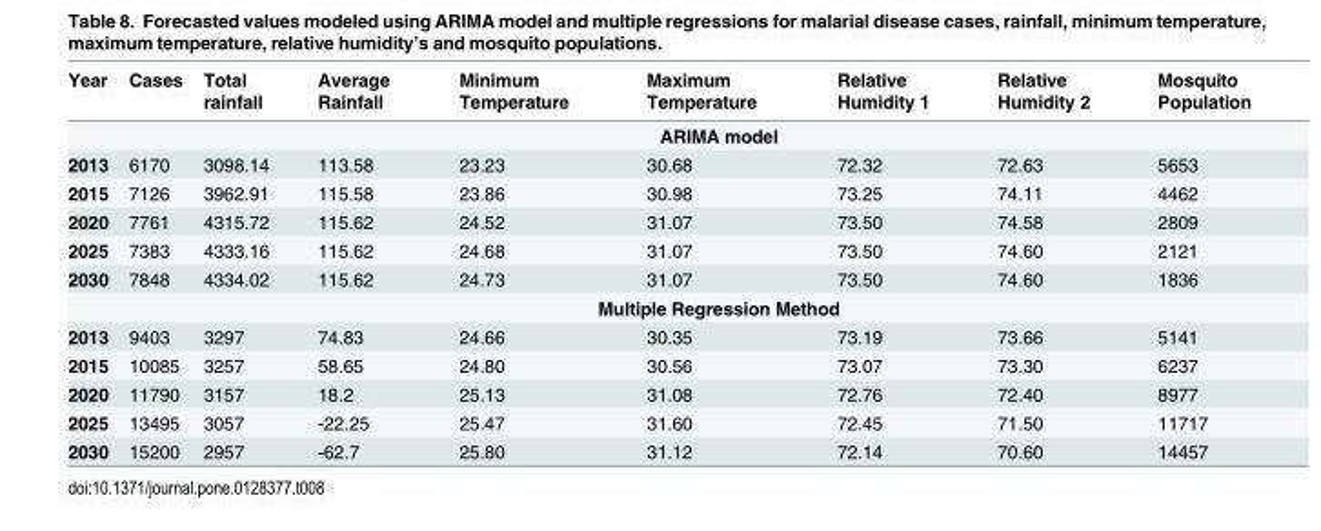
<table><thead><tr><td>Year</td><td>Cases</td><td>Total rainfall</td><td>Average Rainfall</td><td>Minimum Temperature</td><td>Maximum Temperature</td><td>Relative Humidity 1</td><td>Relative Humidity 2</td><td>Mosquito Population</td></tr></thead><tbody><tr><td></td><td colspan="8">ARIMA model</td></tr><tr><td>2013</td><td>6170</td><td>3098.14</td><td>113.58</td><td>23.23</td><td>30.68</td><td>72.32</td><td>72.63</td><td>5653</td></tr><tr><td>2015</td><td>7126</td><td>3962.91</td><td>115.58</td><td>23.86</td><td>30.98</td><td>73.25</td><td>74.11</td><td>4462</td></tr><tr><td>2020</td><td>7761</td><td>4315.72</td><td>115.62</td><td>24.52</td><td>31.07</td><td>73.50</td><td>74.58</td><td>2809</td></tr><tr><td>2025</td><td>7383</td><td>4333.16</td><td>115.62</td><td>24.68</td><td>31.07</td><td>73.50</td><td>74.60</td><td>2121</td></tr><tr><td rowspan="2">2030</td><td>7848</td><td>4334.02</td><td>115.62</td><td>24.73</td><td>31.07</td><td>73.50</td><td>74.60</td><td>1836</td></tr><tr><td colspan="8">Multiple Regression Method</td></tr><tr><td>2013</td><td>9403</td><td>3297</td><td>74.83</td><td>24.66</td><td>30.35</td><td>73.19</td><td>73.66</td><td>5141</td></tr><tr><td>2015</td><td>10085</td><td>3257</td><td>58.65</td><td>24.80</td><td>30.56</td><td>73.07</td><td>73.30</td><td>6237</td></tr><tr><td>2020</td><td>11790</td><td>3157</td><td>18.2</td><td>25.13</td><td>31.08</td><td>72.76</td><td>72.40</td><td>8977</td></tr><tr><td>2025</td><td>13495</td><td>3057</td><td>-22.25</td><td>25.47</td><td>31.60</td><td>72.45</td><td>71.50</td><td>11717</td></tr><tr><td>2030</td><td>15200</td><td>2957</td><td>-62.7</td><td>25.80</td><td>31.12</td><td>72.14</td><td>70.60</td><td>14457</td></tr></tbody></table>